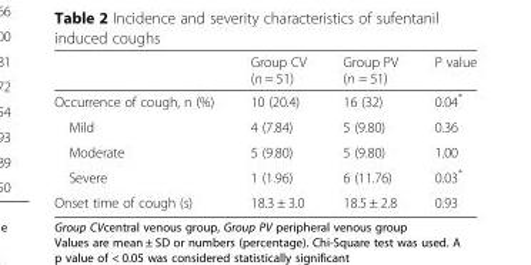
<table><thead><tr><td></td><td>Group CV (n = 51)</td><td>Group PV (n = 51)</td><td>P value</td></tr></thead><tbody><tr><td>Occurrence of cough, n (%)</td><td>10 (20.4)</td><td>16 (32)</td><td>0.04*</td></tr><tr><td>Mild</td><td>4 (7.84)</td><td>5 (9.80)</td><td>0.36</td></tr><tr><td>Moderate</td><td>5 (9.80)</td><td>5 (9.80)</td><td>1.00</td></tr><tr><td>Severe</td><td>1 (1.96)</td><td>6 (11.76)</td><td>0.03*</td></tr><tr><td>Onset time of cough (s)</td><td>18.3 ± 3.0</td><td>18.5 ± 2.8</td><td>0.93</td></tr></tbody></table>